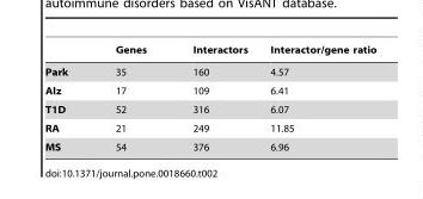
<table><thead><tr><td></td><td>Genes</td><td>Interactors</td><td>Interactor/gene ratio</td></tr></thead><tbody><tr><td>Park</td><td>35</td><td>160</td><td>4.57</td></tr><tr><td>Alz</td><td>17</td><td>109</td><td>6.41</td></tr><tr><td>T1D</td><td>52</td><td>316</td><td>6.07</td></tr><tr><td>RA</td><td>21</td><td>249</td><td>11.85</td></tr><tr><td>MS</td><td>54</td><td>376</td><td>6.96</td></tr></tbody></table>